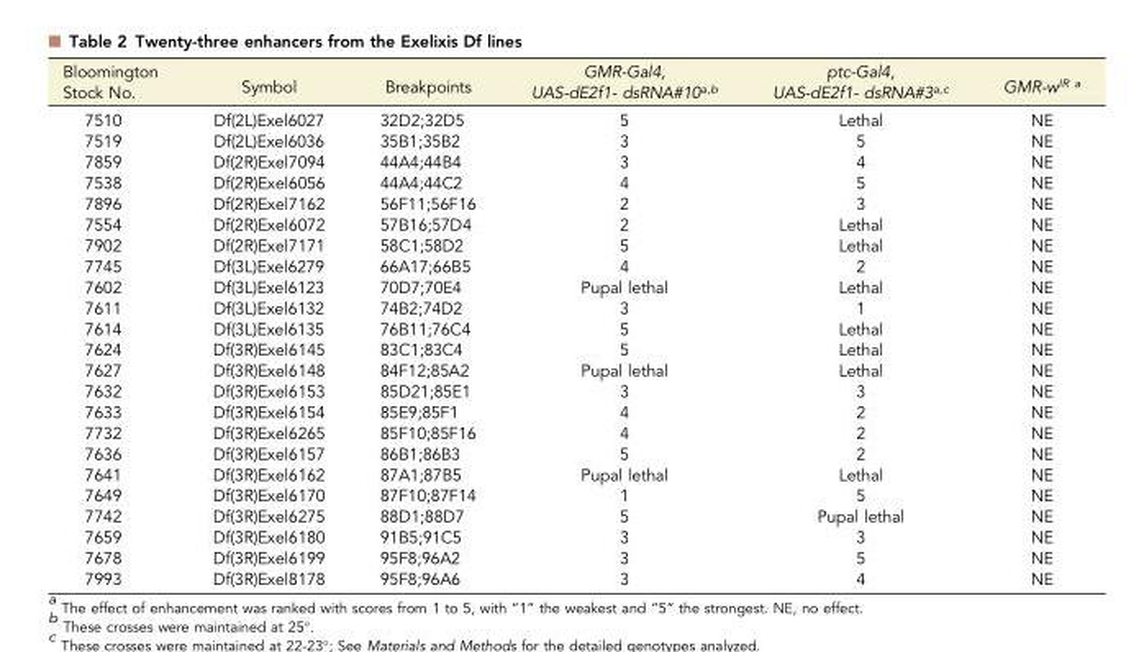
<table><thead><tr><td>Bloomington Stock No.</td><td>Symbol</td><td>Breakpoints</td><td>GMR-Gal4, UAS-dE2f1- dsRNA#10<sup>a,b</sup></td><td>ptc-Gal4, UAS-dE2f1- dsRNA#3<sup>a,c</sup></td><td>GMR-w<sup>IR a</sup></td></tr></thead><tbody><tr><td>7510</td><td>Df(2L)Exel6027</td><td>32D2;32D5</td><td>5</td><td>Lethal</td><td>NE</td></tr><tr><td>7519</td><td>Df(2L)Exel6036</td><td>35B1;35B2</td><td>3</td><td>5</td><td>NE</td></tr><tr><td>7859</td><td>Df(2R)Exel7094</td><td>44A4;44B4</td><td>3</td><td>4</td><td>NE</td></tr><tr><td>7538</td><td>Df(2R)Exel6056</td><td>44A4;44C2</td><td>4</td><td>5</td><td>NE</td></tr><tr><td>7896</td><td>Df(2R)Exel7162</td><td>56F11;56F16</td><td>2</td><td>3</td><td>NE</td></tr><tr><td>7554</td><td>Df(2R)Exel6072</td><td>57B16;57D4</td><td>2</td><td>Lethal</td><td>NE</td></tr><tr><td>7902</td><td>Df(2R)Exel7171</td><td>58C1;58D2</td><td>5</td><td>Lethal</td><td>NE</td></tr><tr><td>7745</td><td>Df(3L)Exel6279</td><td>66A17;66B5</td><td>4</td><td>2</td><td>NE</td></tr><tr><td>7602</td><td>Df(3L)Exel6123</td><td>70D7;70E4</td><td>Pupal lethal</td><td>Lethal</td><td>NE</td></tr><tr><td>7611</td><td>Df(3L)Exel6132</td><td>74B2;74D2</td><td>3</td><td>1</td><td>NE</td></tr><tr><td>7614</td><td>Df(3L)Exel6135</td><td>76B11;76C4</td><td>5</td><td>Lethal</td><td>NE</td></tr><tr><td>7624</td><td>Df(3R)Exel6145</td><td>83C1;83C4</td><td>5</td><td>Lethal</td><td>NE</td></tr><tr><td>7627</td><td>Df(3R)Exel6148</td><td>84F12;85A2</td><td>Pupal lethal</td><td>Lethal</td><td>NE</td></tr><tr><td>7632</td><td>Df(3R)Exel6153</td><td>85D21;85E1</td><td>3</td><td>3</td><td>NE</td></tr><tr><td>7633</td><td>Df(3R)Exel6154</td><td>85E9;85F1</td><td>4</td><td>2</td><td>NE</td></tr><tr><td>7732</td><td>Df(3R)Exel6265</td><td>85F10;85F16</td><td>4</td><td>2</td><td>NE</td></tr><tr><td>7636</td><td>Df(3R)Exel6157</td><td>86B1;86B3</td><td>5</td><td>2</td><td>NE</td></tr><tr><td>7641</td><td>Df(3R)Exel6162</td><td>87A1;87B5</td><td>Pupal lethal</td><td>Lethal</td><td>NE</td></tr><tr><td>7649</td><td>Df(3R)Exel6170</td><td>87F10;87F14</td><td>1</td><td>5</td><td>NE</td></tr><tr><td>7742</td><td>Df(3R)Exel6275</td><td>88D1;88D7</td><td>5</td><td>Pupal lethal</td><td>NE</td></tr><tr><td>7659</td><td>Df(3R)Exel6180</td><td>91B5;91C5</td><td>3</td><td>3</td><td>NE</td></tr><tr><td>7678</td><td>Df(3R)Exel6199</td><td>95F8;96A2</td><td>3</td><td>5</td><td>NE</td></tr><tr><td>7993</td><td>Df(3R)Exel8178</td><td>95F8;96A6</td><td>3</td><td>4</td><td>NE</td></tr></tbody></table>